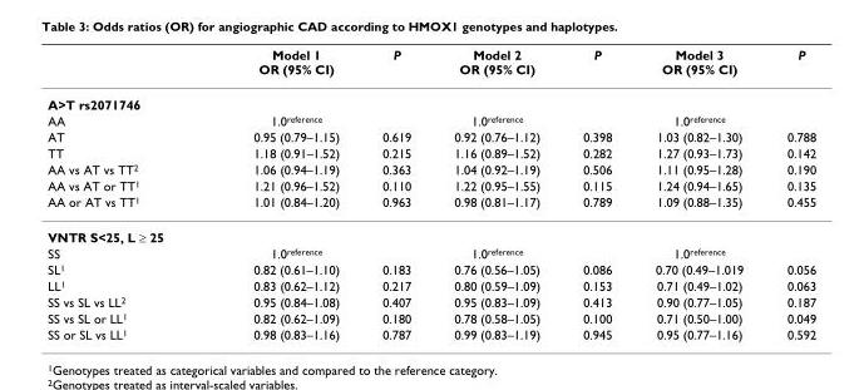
<table><thead><tr><td></td><td>Model 1 OR (95% CI)</td><td>P</td><td>Model 2 OR (95% CI)</td><td>P</td><td>Model 3 OR (95% CI)</td><td>P</td></tr></thead><tbody><tr><td colspan="7">A&gt;T rs2071746</td></tr><tr><td>AA</td><td>1.0<sup>reference</sup></td><td></td><td>1.0<sup>reference</sup></td><td></td><td>1.0<sup>reference</sup></td><td></td></tr><tr><td>AT</td><td>0.95 (0.79–1.15)</td><td>0.619</td><td>0.92 (0.76–1.12)</td><td>0.398</td><td>1.03 (0.82–1.30)</td><td>0.788</td></tr><tr><td>TT</td><td>1.18 (0.91–1.52)</td><td>0.215</td><td>1.16 (0.89–1.52)</td><td>0.282</td><td>1.27 (0.93–1.73)</td><td>0.142</td></tr><tr><td>AA vs AT vs TT<sup>2</sup></td><td>1.06 (0.94–1.19)</td><td>0.363</td><td>1.04 (0.92–1.19)</td><td>0.506</td><td>1.11 (0.95–1.28)</td><td>0.190</td></tr><tr><td>AA vs AT or TT<sup>1</sup></td><td>1.21 (0.96–1.52)</td><td>0.110</td><td>1.22 (0.95–1.55)</td><td>0.115</td><td>1.24 (0.94–1.65)</td><td>0.135</td></tr><tr><td>AA or AT vs TT<sup>1</sup></td><td>1.01 (0.84–1.20)</td><td>0.963</td><td>0.98 (0.81–1.17)</td><td>0.789</td><td>1.09 (0.88–1.35)</td><td>0.455</td></tr><tr><td colspan="7">VNTR S&lt;25, L ≥ 25</td></tr><tr><td>SS</td><td>1.0<sup>reference</sup></td><td></td><td>1.0<sup>reference</sup></td><td></td><td>1.0<sup>reference</sup></td><td></td></tr><tr><td>SL<sup>1</sup></td><td>0.82 (0.61–1.10)</td><td>0.183</td><td>0.76 (0.56–1.05)</td><td>0.086</td><td>0.70 (0.49–1.019</td><td>0.056</td></tr><tr><td>LL<sup>1</sup></td><td>0.83 (0.62–1.12)</td><td>0.217</td><td>0.80 (0.59–1.09)</td><td>0.153</td><td>0.71 (0.49–1.02)</td><td>0.063</td></tr><tr><td>SS vs SL vs LL<sup>2</sup></td><td>0.95 (0.84–1.08)</td><td>0.407</td><td>0.95 (0.83–1.09)</td><td>0.413</td><td>0.90 (0.77–1.05)</td><td>0.187</td></tr><tr><td>SS vs SL or LL<sup>1</sup></td><td>0.82 (0.62–1.09)</td><td>0.180</td><td>0.78 (0.58–1.05)</td><td>0.100</td><td>0.71 (0.50–1.00)</td><td>0.049</td></tr><tr><td>SS or SL vs LL<sup>1</sup></td><td>0.98 (0.83–1.16)</td><td>0.787</td><td>0.99 (0.83–1.19)</td><td>0.945</td><td>0.95 (0.77–1.16)</td><td>0.592</td></tr></tbody></table>